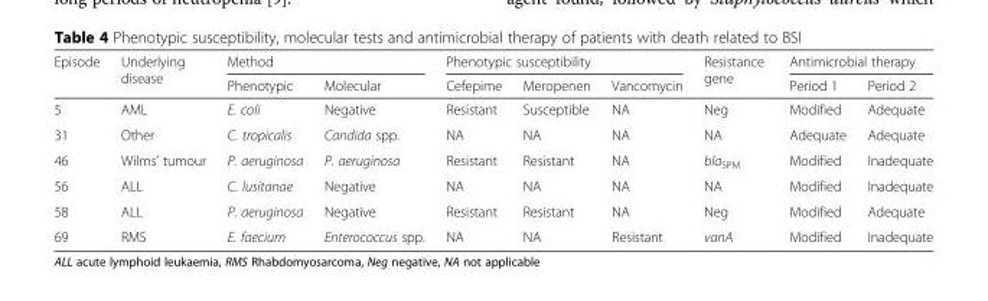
<table><thead><tr><td rowspan="2">Episode</td><td rowspan="2">Underlying disease</td><td colspan="2">Method</td><td colspan="3">Phenotypic susceptibility</td><td rowspan="2">Resistance gene</td><td colspan="2">Antimicrobial therapy</td></tr><tr><td>Phenotypic</td><td>Molecular</td><td>Cefepime</td><td>Meropenen</td><td>Vancomycin</td><td>Period 1</td><td>Period 2</td></tr></thead><tbody><tr><td>5</td><td>AML</td><td>E. coli</td><td>Negative</td><td>Resistant</td><td>Susceptible</td><td>NA</td><td>Neg</td><td>Modified</td><td>Adequate</td></tr><tr><td>31</td><td>Other</td><td>C. tropicalis</td><td>Candida spp.</td><td>NA</td><td>NA</td><td>NA</td><td>NA</td><td>Adequate</td><td>Adequate</td></tr><tr><td>46</td><td>Wilms’ tumour</td><td>P. aeruginosa</td><td>P. aeruginosa</td><td>Resistant</td><td>Resistant</td><td>NA</td><td>bla<sub>SPM</sub></td><td>Modified</td><td>Inadequate</td></tr><tr><td>56</td><td>ALL</td><td>C. lusitanae</td><td>Negative</td><td>NA</td><td>NA</td><td>NA</td><td>NA</td><td>Modified</td><td>Inadequate</td></tr><tr><td>58</td><td>ALL</td><td>P. aeruginosa</td><td>Negative</td><td>Resistant</td><td>Resistant</td><td>NA</td><td>Neg</td><td>Modified</td><td>Adequate</td></tr><tr><td>69</td><td>RMS</td><td>E. faecium</td><td>Enterococcus spp.</td><td>NA</td><td>NA</td><td>Resistant</td><td>vanA</td><td>Modified</td><td>Inadequate</td></tr></tbody></table>